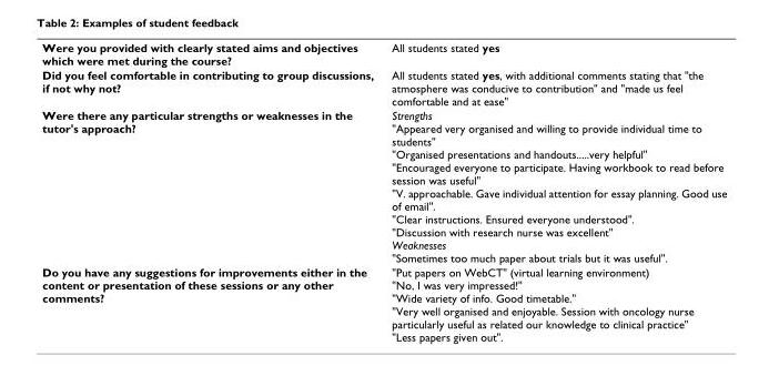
<table><tbody><tr><td>Were you provided with clearly stated aims and objectives which were met during the course?</td><td>All students stated yes</td></tr><tr><td>Did you feel comfortable in contributing to group discussions, if not why not?</td><td>All students stated yes, with additional comments stating that &quot;the atmosphere was conducive to contribution&quot; and &quot;made us feel comfortable and at ease&quot;</td></tr><tr><td>Were there any particular strengths or weaknesses in the tutor&#x27;s approach?</td><td>Strengths &quot;Appeared very organised and willing to provide individual time to students&quot; &quot;Organised presentations and handouts.....very helpful&quot; &quot;Encouraged everyone to participate. Having workbook to read before session was useful&quot; &quot;V. approachable. Gave individual attention for essay planning. Good use of email&quot;. &quot;Clear instructions. Ensured everyone understood&quot;. &quot;Discussion with research nurse was excellent&quot; Weaknesses &quot;Sometimes too much paper about trials but it was useful&quot;.</td></tr><tr><td>Do you have any suggestions for improvements either in the content or presentation of these sessions or any other comments?</td><td>&quot;Put papers on WebCT&quot; (virtual learning environment) &quot;No, I was very impressed!&quot; &quot;Wide variety of info. Good timetable.&quot; &quot;Very well organised and enjoyable. Session with oncology nurse particularly useful as related our knowledge to clinical practice&quot; &quot;Less papers given out&quot;.</td></tr></tbody></table>